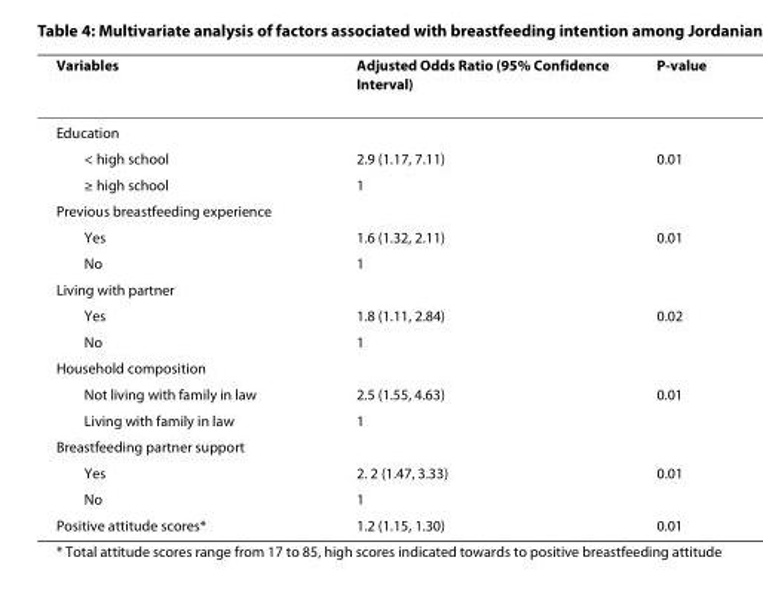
<table><thead><tr><td>Variables</td><td>Adjusted Odds Ratio (95% Confidence Interval)</td><td>P-value</td></tr></thead><tbody><tr><td colspan="3">Education</td></tr><tr><td>&lt; high school</td><td>2.9 (1.17, 7.11)</td><td>0.01</td></tr><tr><td>≥ high school</td><td>1</td><td></td></tr><tr><td colspan="3">Previous breastfeeding experience</td></tr><tr><td>Yes</td><td>1.6 (1.32, 2.11)</td><td>0.01</td></tr><tr><td>No</td><td>1</td><td></td></tr><tr><td colspan="3">Living with partner</td></tr><tr><td>Yes</td><td>1.8 (1.11, 2.84)</td><td>0.02</td></tr><tr><td>No</td><td>1</td><td></td></tr><tr><td colspan="3">Household composition</td></tr><tr><td>Not living with family in law</td><td>2.5 (1.55, 4.63)</td><td>0.01</td></tr><tr><td>Living with family in law</td><td>1</td><td></td></tr><tr><td colspan="3">Breastfeeding partner support</td></tr><tr><td>Yes</td><td>2. 2 (1.47, 3.33)</td><td>0.01</td></tr><tr><td>No</td><td>1</td><td></td></tr><tr><td>Positive attitude scores*</td><td>1.2 (1.15, 1.30)</td><td>0.01</td></tr></tbody></table>